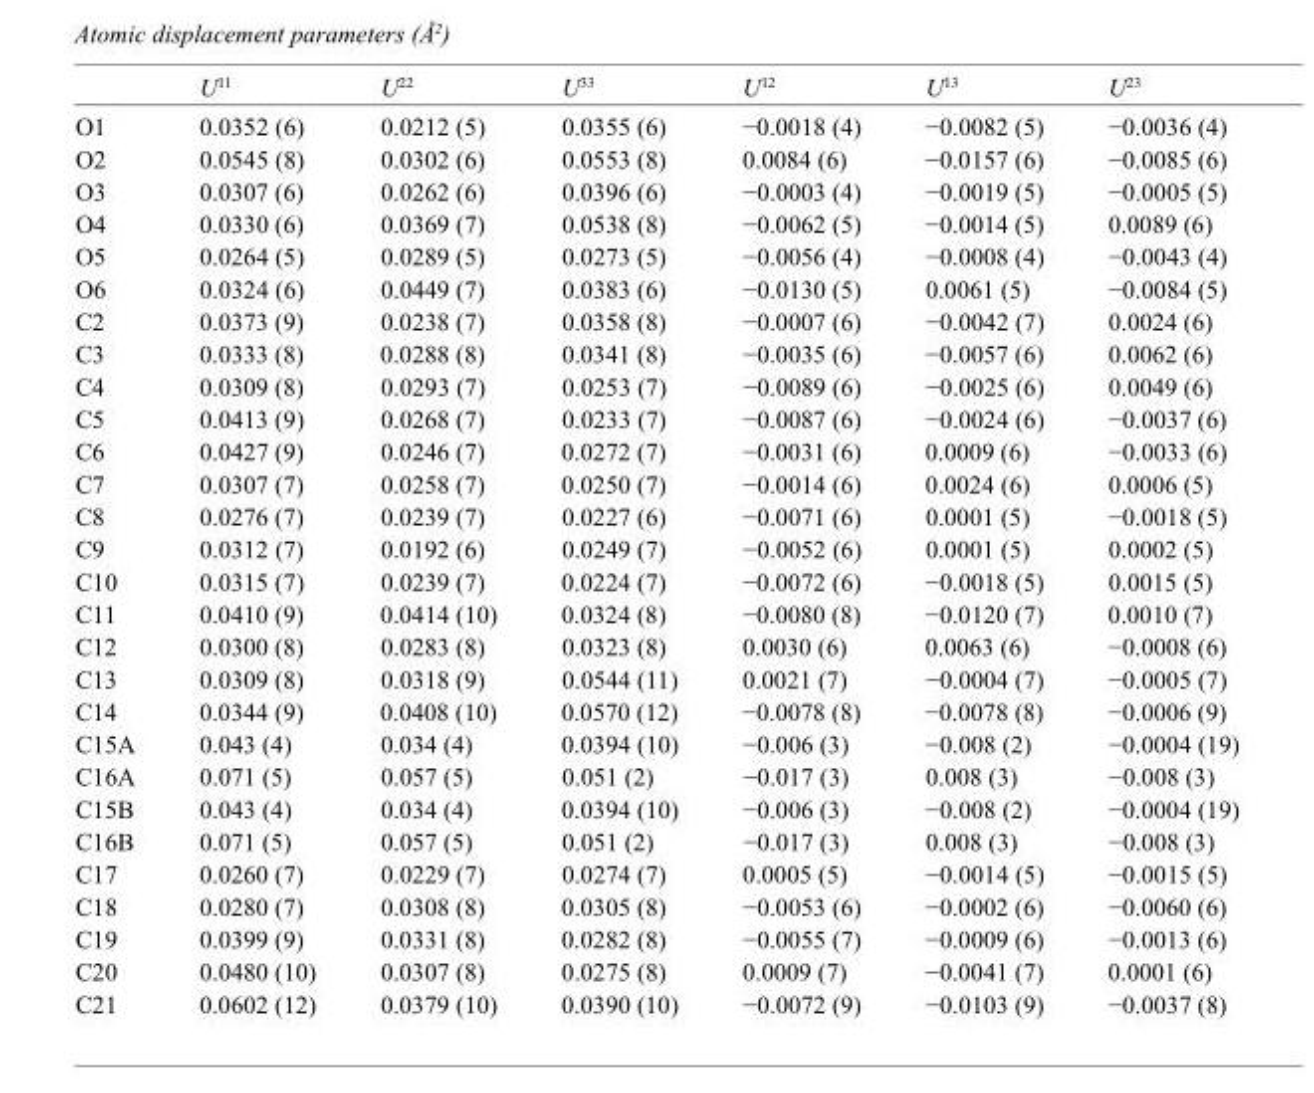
<table><thead><tr><td></td><td>U<sup>11</sup></td><td>U<sup>22</sup></td><td>U<sup>33</sup></td><td>U<sup>12</sup></td><td>U<sup>13</sup></td><td>U<sup>23</sup></td></tr></thead><tbody><tr><td>O1</td><td>0.0352 (6)</td><td>0.0212 (5)</td><td>0.0355 (6)</td><td>−0.0018 (4)</td><td>−0.0082 (5)</td><td>−0.0036 (4)</td></tr><tr><td>O2</td><td>0.0545 (8)</td><td>0.0302 (6)</td><td>0.0553 (8)</td><td>0.0084 (6)</td><td>−0.0157 (6)</td><td>−0.0085 (6)</td></tr><tr><td>O3</td><td>0.0307 (6)</td><td>0.0262 (6)</td><td>0.0396 (6)</td><td>−0.0003 (4)</td><td>−0.0019 (5)</td><td>−0.0005 (5)</td></tr><tr><td>O4</td><td>0.0330 (6)</td><td>0.0369 (7)</td><td>0.0538 (8)</td><td>−0.0062 (5)</td><td>−0.0014 (5)</td><td>0.0089 (6)</td></tr><tr><td>O5</td><td>0.0264 (5)</td><td>0.0289 (5)</td><td>0.0273 (5)</td><td>−0.0056 (4)</td><td>−0.0008 (4)</td><td>−0.0043 (4)</td></tr><tr><td>O6</td><td>0.0324 (6)</td><td>0.0449 (7)</td><td>0.0383 (6)</td><td>−0.0130 (5)</td><td>0.0061 (5)</td><td>−0.0084 (5)</td></tr><tr><td>C2</td><td>0.0373 (9)</td><td>0.0238 (7)</td><td>0.0358 (8)</td><td>−0.0007 (6)</td><td>−0.0042 (7)</td><td>0.0024 (6)</td></tr><tr><td>C3</td><td>0.0333 (8)</td><td>0.0288 (8)</td><td>0.0341 (8)</td><td>−0.0035 (6)</td><td>−0.0057 (6)</td><td>0.0062 (6)</td></tr><tr><td>C4</td><td>0.0309 (8)</td><td>0.0293 (7)</td><td>0.0253 (7)</td><td>−0.0089 (6)</td><td>−0.0025 (6)</td><td>0.0049 (6)</td></tr><tr><td>C5</td><td>0.0413 (9)</td><td>0.0268 (7)</td><td>0.0233 (7)</td><td>−0.0087 (6)</td><td>−0.0024 (6)</td><td>−0.0037 (6)</td></tr><tr><td>C6</td><td>0.0427 (9)</td><td>0.0246 (7)</td><td>0.0272 (7)</td><td>−0.0031 (6)</td><td>0.0009 (6)</td><td>−0.0033 (6)</td></tr><tr><td>C7</td><td>0.0307 (7)</td><td>0.0258 (7)</td><td>0.0250 (7)</td><td>−0.0014 (6)</td><td>0.0024 (6)</td><td>0.0006 (5)</td></tr><tr><td>C8</td><td>0.0276 (7)</td><td>0.0239 (7)</td><td>0.0227 (6)</td><td>−0.0071 (6)</td><td>0.0001 (5)</td><td>−0.0018 (5)</td></tr><tr><td>C9</td><td>0.0312 (7)</td><td>0.0192 (6)</td><td>0.0249 (7)</td><td>−0.0052 (6)</td><td>0.0001 (5)</td><td>0.0002 (5)</td></tr><tr><td>C10</td><td>0.0315 (7)</td><td>0.0239 (7)</td><td>0.0224 (7)</td><td>−0.0072 (6)</td><td>−0.0018 (5)</td><td>0.0015 (5)</td></tr><tr><td>C11</td><td>0.0410 (9)</td><td>0.0414 (10)</td><td>0.0324 (8)</td><td>−0.0080 (8)</td><td>−0.0120 (7)</td><td>0.0010 (7)</td></tr><tr><td>C12</td><td>0.0300 (8)</td><td>0.0283 (8)</td><td>0.0323 (8)</td><td>0.0030 (6)</td><td>0.0063 (6)</td><td>−0.0008 (6)</td></tr><tr><td>C13</td><td>0.0309 (8)</td><td>0.0318 (9)</td><td>0.0544 (11)</td><td>0.0021 (7)</td><td>−0.0004 (7)</td><td>−0.0005 (7)</td></tr><tr><td>C14</td><td>0.0344 (9)</td><td>0.0408 (10)</td><td>0.0570 (12)</td><td>−0.0078 (8)</td><td>−0.0078 (8)</td><td>−0.0006 (9)</td></tr><tr><td>C15A</td><td>0.043 (4)</td><td>0.034 (4)</td><td>0.0394 (10)</td><td>−0.006 (3)</td><td>−0.008 (2)</td><td>−0.0004 (19)</td></tr><tr><td>C16A</td><td>0.071 (5)</td><td>0.057 (5)</td><td>0.051 (2)</td><td>−0.017 (3)</td><td>0.008 (3)</td><td>−0.008 (3)</td></tr><tr><td>C15B</td><td>0.043 (4)</td><td>0.034 (4)</td><td>0.0394 (10)</td><td>−0.006 (3)</td><td>−0.008 (2)</td><td>−0.0004 (19)</td></tr><tr><td>C16B</td><td>0.071 (5)</td><td>0.057 (5)</td><td>0.051 (2)</td><td>−0.017 (3)</td><td>0.008 (3)</td><td>−0.008 (3)</td></tr><tr><td>C17</td><td>0.0260 (7)</td><td>0.0229 (7)</td><td>0.0274 (7)</td><td>0.0005 (5)</td><td>−0.0014 (5)</td><td>−0.0015 (5)</td></tr><tr><td>C18</td><td>0.0280 (7)</td><td>0.0308 (8)</td><td>0.0305 (8)</td><td>−0.0053 (6)</td><td>−0.0002 (6)</td><td>−0.0060 (6)</td></tr><tr><td>C19</td><td>0.0399 (9)</td><td>0.0331 (8)</td><td>0.0282 (8)</td><td>−0.0055 (7)</td><td>−0.0009 (6)</td><td>−0.0013 (6)</td></tr><tr><td>C20</td><td>0.0480 (10)</td><td>0.0307 (8)</td><td>0.0275 (8)</td><td>0.0009 (7)</td><td>−0.0041 (7)</td><td>0.0001 (6)</td></tr><tr><td>C21</td><td>0.0602 (12)</td><td>0.0379 (10)</td><td>0.0390 (10)</td><td>−0.0072 (9)</td><td>−0.0103 (9)</td><td>−0.0037 (8)</td></tr></tbody></table>